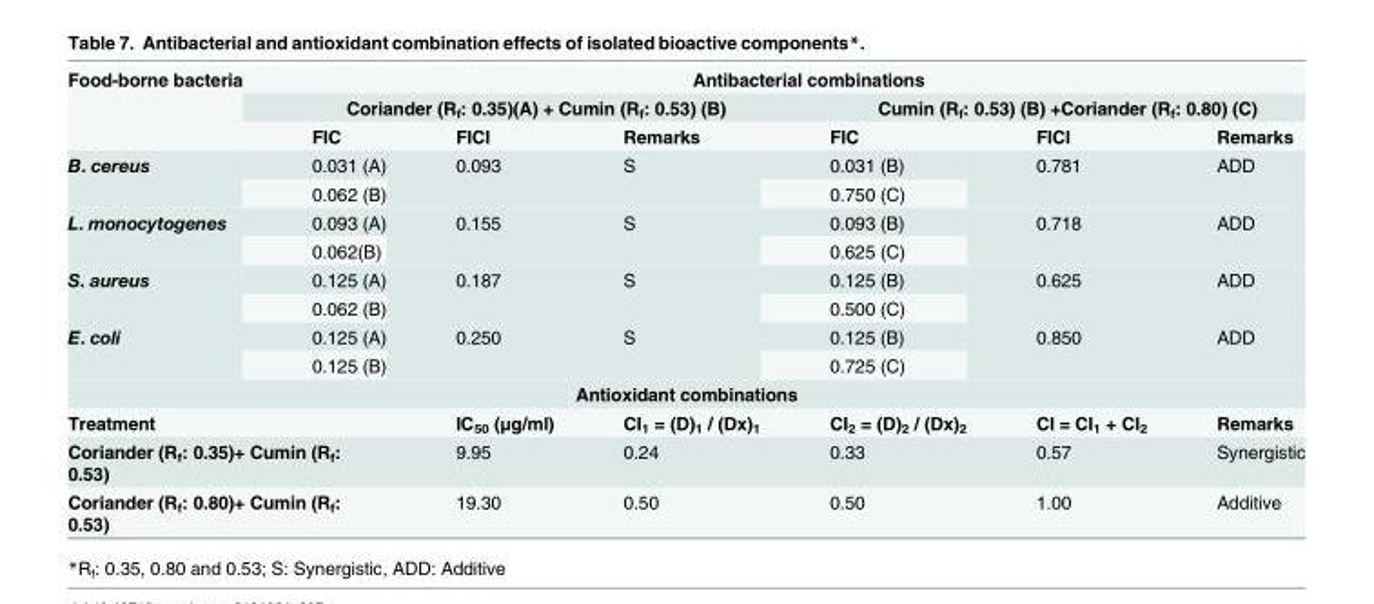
<table><tbody><tr><td rowspan="3">Food-borne bacteria</td><td colspan="6">Antibacterial combinations</td></tr><tr><td colspan="3">Coriander (R<sub>f</sub>: 0.35)(A) + Cumin (R<sub>f</sub>: 0.53) (B)</td><td colspan="3">Cumin (R<sub>f</sub>: 0.53) (B) +Coriander (R<sub>f</sub>: 0.80) (C)</td></tr><tr><td>FIC</td><td>FICI</td><td>Remarks</td><td>FIC</td><td>FICI</td><td>Remarks</td></tr><tr><td rowspan="2">B. cereus</td><td>0.031 (A)</td><td rowspan="2">0.093</td><td rowspan="2">S</td><td>0.031 (B)</td><td rowspan="2">0.781</td><td rowspan="2">ADD</td></tr><tr><td>0.062 (B)</td><td>0.750 (C)</td></tr><tr><td rowspan="2">L. monocytogenes</td><td>0.093 (A)</td><td rowspan="2">0.155</td><td rowspan="2">S</td><td>0.093 (B)</td><td rowspan="2">0.718</td><td rowspan="2">ADD</td></tr><tr><td>0.062(B)</td><td>0.625 (C)</td></tr><tr><td rowspan="2">S. aureus</td><td>0.125 (A)</td><td rowspan="2">0.187</td><td rowspan="2">S</td><td>0.125 (B)</td><td rowspan="2">0.625</td><td rowspan="2">ADD</td></tr><tr><td>0.062 (B)</td><td>0.500 (C)</td></tr><tr><td rowspan="2">E. coli</td><td>0.125 (A)</td><td rowspan="2">0.250</td><td rowspan="2">S</td><td>0.125 (B)</td><td rowspan="2">0.850</td><td rowspan="2">ADD</td></tr><tr><td>0.125 (B)</td><td>0.725 (C)</td></tr><tr><td colspan="7">Antioxidant combinations</td></tr><tr><td colspan="2">Treatment</td><td>IC<sub>50</sub> (μg/ml)</td><td>CI<sub>1</sub> = (D)<sub>1</sub> / (Dx)<sub>1</sub></td><td>CI<sub>2</sub> = (D)<sub>2</sub> / (Dx)<sub>2</sub></td><td>CI = CI<sub>1</sub> + CI<sub>2</sub></td><td>Remarks</td></tr><tr><td colspan="2">Coriander (R<sub>f</sub>: 0.35)+ Cumin (R<sub>f</sub>: 0.53)</td><td>9.95</td><td>0.24</td><td>0.33</td><td>0.57</td><td>Synergistic</td></tr><tr><td colspan="2">Coriander (R<sub>f</sub>: 0.80)+ Cumin (R<sub>f</sub>: 0.53)</td><td>19.30</td><td>0.50</td><td>0.50</td><td>1.00</td><td>Additive</td></tr></tbody></table>